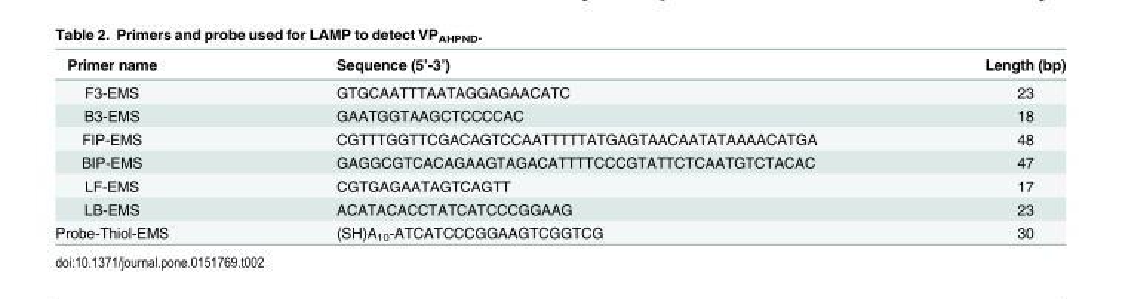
<table><thead><tr><td>Primer name</td><td>Sequence (5’-3’)</td><td>Length (bp)</td></tr></thead><tbody><tr><td>F3-EMS</td><td>GTGCAATTTAATAGGAGAACATC</td><td>23</td></tr><tr><td>B3-EMS</td><td>GAATGGTAAGCTCCCCAC</td><td>18</td></tr><tr><td>FIP-EMS</td><td>CGTTTGGTTCGACAGTCCAATTTTTATGAGTAACAATATAAAACATGA</td><td>48</td></tr><tr><td>BIP-EMS</td><td>GAGGCGTCACAGAAGTAGACATTTTCCCGTATTCTCAATGTCTACAC</td><td>47</td></tr><tr><td>LF-EMS</td><td>CGTGAGAATAGTCAGTT</td><td>17</td></tr><tr><td>LB-EMS</td><td>ACATACACCTATCATCCCGGAAG</td><td>23</td></tr><tr><td>Probe-Thiol-EMS</td><td>(SH)A10-ATCATCCCGGAAGTCGGTCG</td><td>30</td></tr></tbody></table>